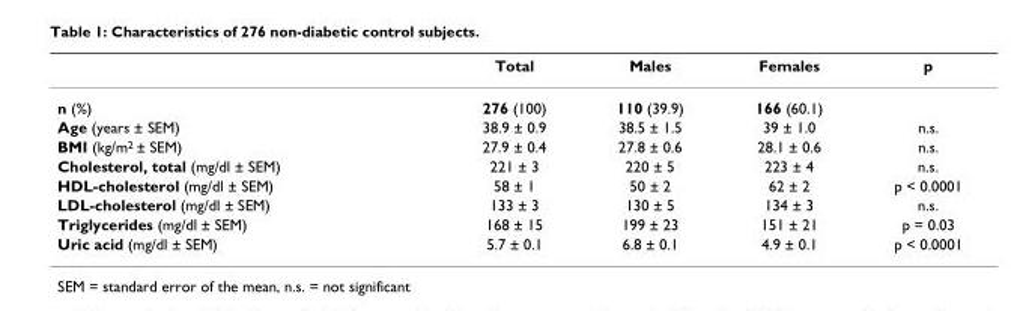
<table><thead><tr><td></td><td>Total</td><td>Males</td><td>Females</td><td>p</td></tr></thead><tbody><tr><td>n (%)</td><td>276 (100)</td><td>110 (39.9)</td><td>166 (60.1)</td><td></td></tr><tr><td>Age (years ± SEM)</td><td>38.9 ± 0.9</td><td>38.5 ± 1.5</td><td>39 ± 1.0</td><td>n.s.</td></tr><tr><td>BMI (kg/m<sup>2</sup> ± SEM)</td><td>27.9 ± 0.4</td><td>27.8 ± 0.6</td><td>28.1 ± 0.6</td><td>n.s.</td></tr><tr><td>Cholesterol, total (mg/dl ± SEM)</td><td>221 ± 3</td><td>220 ± 5</td><td>223 ± 4</td><td>n.s.</td></tr><tr><td>HDL-cholesterol (mg/dl ± SEM)</td><td>58 ± 1</td><td>50 ± 2</td><td>62 ± 2</td><td>p &lt; 0.0001</td></tr><tr><td>LDL-cholesterol (mg/dl ± SEM)</td><td>133 ± 3</td><td>130 ± 5</td><td>134 ± 3</td><td>n.s.</td></tr><tr><td>Triglycerides (mg/dl ± SEM)</td><td>168 ± 15</td><td>199 ± 23</td><td>151 ± 21</td><td>p = 0.03</td></tr><tr><td>Uric acid (mg/dl ± SEM)</td><td>5.7 ± 0.1</td><td>6.8 ± 0.1</td><td>4.9 ± 0.1</td><td>p &lt; 0.0001</td></tr></tbody></table>